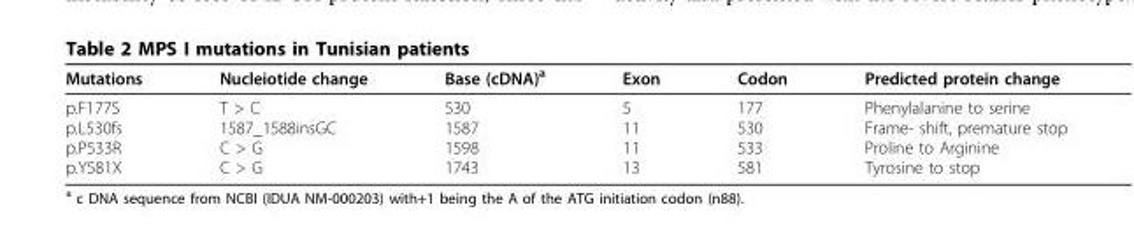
<table><thead><tr><td>Mutations</td><td>Nucleiotide change</td><td>Base (cDNA)<sup>a</sup></td><td>Exon</td><td>Codon</td><td>Predicted protein change</td></tr></thead><tbody><tr><td>p.F177S p.L530fs p.P533R p.Y581X</td><td>T &gt; C 1587_1588insGC C &gt; G C &gt; G</td><td>530 1587 1598 1743</td><td>5 11 11 13</td><td>177 530 533 581</td><td>Phenylalanine to serine Frame- shift, premature stop Proline to Arginine Tyrosine to stop</td></tr></tbody></table>